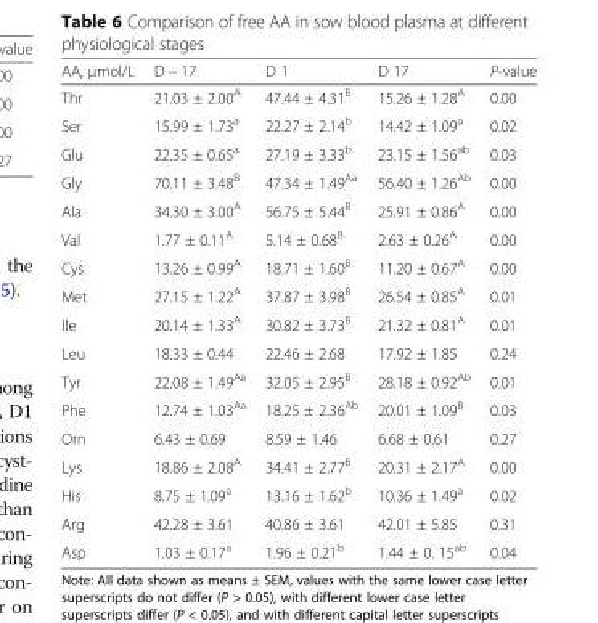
<table><thead><tr><td>AA, μmol/L</td><td>D − 17</td><td>D 1</td><td>D 17</td><td>P-value</td></tr></thead><tbody><tr><td>Thr</td><td>21.03 ± 2.00<sup>A</sup></td><td>47.44 ± 4.31<sup>B</sup></td><td>15.26 ± 1.28<sup>A</sup></td><td>0.00</td></tr><tr><td>Ser</td><td>15.99 ± 1.73<sup>a</sup></td><td>22.27 ± 2.14<sup>b</sup></td><td>14.42 ± 1.09<sup>a</sup></td><td>0.02</td></tr><tr><td>Glu</td><td>22.35 ± 0.65<sup>a</sup></td><td>27.19 ± 3.33<sup>b</sup></td><td>23.15 ± 1.56<sup>ab</sup></td><td>0.03</td></tr><tr><td>Gly</td><td>70.11 ± 3.48<sup>B</sup></td><td>47.34 ± 1.49<sup>Aa</sup></td><td>56.40 ± 1.26<sup>Ab</sup></td><td>0.00</td></tr><tr><td>Ala</td><td>34.30 ± 3.00<sup>A</sup></td><td>56.75 ± 5.44<sup>B</sup></td><td>25.91 ± 0.86<sup>A</sup></td><td>0.00</td></tr><tr><td>Val</td><td>1.77 ± 0.11<sup>A</sup></td><td>5.14 ± 0.68<sup>B</sup></td><td>2.63 ± 0.26<sup>A</sup></td><td>0.00</td></tr><tr><td>Cys</td><td>13.26 ± 0.99<sup>A</sup></td><td>18.71 ± 1.60<sup>B</sup></td><td>11.20 ± 0.67<sup>A</sup></td><td>0.00</td></tr><tr><td>Met</td><td>27.15 ± 1.22<sup>A</sup></td><td>37.87 ± 3.98<sup>B</sup></td><td>26.54 ± 0.85<sup>A</sup></td><td>0.01</td></tr><tr><td>Ile</td><td>20.14 ± 1.33<sup>A</sup></td><td>30.82 ± 3.73<sup>B</sup></td><td>21.32 ± 0.81<sup>A</sup></td><td>0.01</td></tr><tr><td>Leu</td><td>18.33 ± 0.44</td><td>22.46 ± 2.68</td><td>17.92 ± 1.85</td><td>0.24</td></tr><tr><td>Tyr</td><td>22.08 ± 1.49<sup>Aa</sup></td><td>32.05 ± 2.95<sup>B</sup></td><td>28.18 ± 0.92<sup>Ab</sup></td><td>0.01</td></tr><tr><td>Phe</td><td>12.74 ± 1.03<sup>Aa</sup></td><td>18.25 ± 2.36<sup>Ab</sup></td><td>20.01 ± 1.09<sup>B</sup></td><td>0.03</td></tr><tr><td>Orn</td><td>6.43 ± 0.69</td><td>8.59 ± 1.46</td><td>6.68 ± 0.61</td><td>0.27</td></tr><tr><td>Lys</td><td>18.86 ± 2.08<sup>A</sup></td><td>34.41 ± 2.77<sup>B</sup></td><td>20.31 ± 2.17<sup>A</sup></td><td>0.00</td></tr><tr><td>His</td><td>8.75 ± 1.09<sup>a</sup></td><td>13.16 ± 1.62<sup>b</sup></td><td>10.36 ± 1.49<sup>a</sup></td><td>0.02</td></tr><tr><td>Arg</td><td>42.28 ± 3.61</td><td>40.86 ± 3.61</td><td>42.01 ± 5.85</td><td>0.31</td></tr><tr><td>Asp</td><td>1.03 ± 0.17<sup>a</sup></td><td>1.96 ± 0.21<sup>b</sup></td><td>1.44 ± 0. 15<sup>ab</sup></td><td>0.04</td></tr></tbody></table>